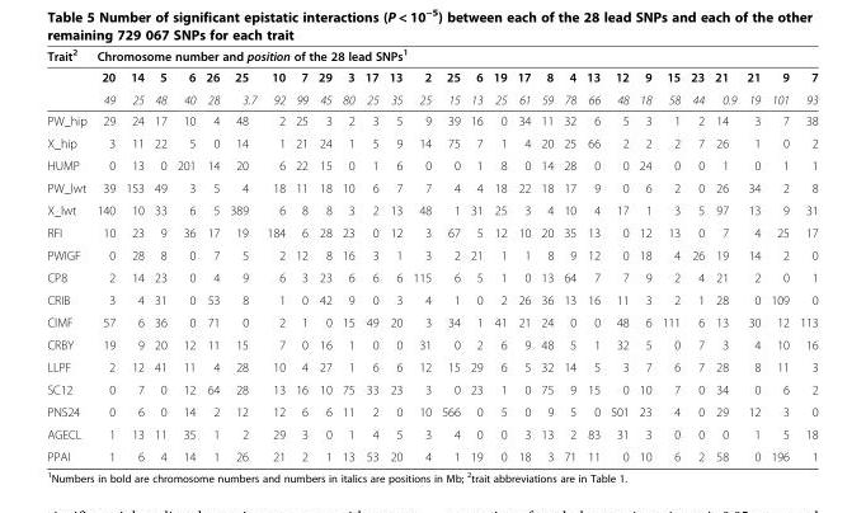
<table><thead><tr><td rowspan="2">Trait<sup>2</sup></td><td colspan="28">Chromosome number and position of the 28 lead SNPs<sup>1</sup></td></tr><tr><td>20</td><td>14</td><td>5</td><td>6</td><td>26</td><td>25</td><td>10</td><td>7</td><td>29</td><td>3</td><td>17</td><td>13</td><td>2</td><td>25</td><td>6</td><td>19</td><td>17</td><td>8</td><td>4</td><td>13</td><td>12</td><td>9</td><td>15</td><td>23</td><td>21</td><td>21</td><td>9</td><td>7</td></tr></thead><tbody><tr><td></td><td>49</td><td>25</td><td>48</td><td>40</td><td>28</td><td>3.7</td><td>92</td><td>99</td><td>45</td><td>80</td><td>25</td><td>35</td><td>25</td><td>15</td><td>13</td><td>25</td><td>61</td><td>59</td><td>78</td><td>66</td><td>48</td><td>18</td><td>58</td><td>44</td><td>0.9</td><td>19</td><td>101</td><td>93</td></tr><tr><td>PW_hip</td><td>29</td><td>24</td><td>17</td><td>10</td><td>4</td><td>48</td><td>2</td><td>25</td><td>3</td><td>2</td><td>3</td><td>5</td><td>9</td><td>39</td><td>16</td><td>0</td><td>34</td><td>11</td><td>32</td><td>6</td><td>5</td><td>3</td><td>1</td><td>2</td><td>14</td><td>3</td><td>7</td><td>38</td></tr><tr><td>X_hip</td><td>3</td><td>11</td><td>22</td><td>5</td><td>0</td><td>14</td><td>1</td><td>21</td><td>24</td><td>1</td><td>5</td><td>9</td><td>14</td><td>75</td><td>7</td><td>1</td><td>4</td><td>20</td><td>25</td><td>66</td><td>2</td><td>2</td><td>2</td><td>7</td><td>26</td><td>1</td><td>0</td><td>2</td></tr><tr><td>HUMP</td><td>0</td><td>13</td><td>0</td><td>201</td><td>14</td><td>20</td><td>6</td><td>22</td><td>15</td><td>0</td><td>1</td><td>6</td><td>0</td><td>0</td><td>1</td><td>8</td><td>0</td><td>14</td><td>28</td><td>0</td><td>0</td><td>24</td><td>0</td><td>0</td><td>1</td><td>0</td><td>1</td><td>1</td></tr><tr><td>PW_lwt</td><td>39</td><td>153</td><td>49</td><td>3</td><td>5</td><td>4</td><td>18</td><td>11</td><td>18</td><td>10</td><td>6</td><td>7</td><td>7</td><td>4</td><td>4</td><td>18</td><td>22</td><td>18</td><td>17</td><td>9</td><td>0</td><td>6</td><td>2</td><td>0</td><td>26</td><td>34</td><td>2</td><td>8</td></tr><tr><td>X_lwt</td><td>140</td><td>10</td><td>33</td><td>6</td><td>5</td><td>389</td><td>6</td><td>8</td><td>8</td><td>3</td><td>2</td><td>13</td><td>48</td><td>1</td><td>31</td><td>25</td><td>3</td><td>4</td><td>10</td><td>4</td><td>17</td><td>1</td><td>3</td><td>5</td><td>97</td><td>13</td><td>9</td><td>31</td></tr><tr><td>RFI</td><td>10</td><td>23</td><td>9</td><td>36</td><td>17</td><td>19</td><td>184</td><td>6</td><td>28</td><td>23</td><td>0</td><td>12</td><td>3</td><td>67</td><td>5</td><td>12</td><td>10</td><td>20</td><td>35</td><td>13</td><td>0</td><td>12</td><td>13</td><td>0</td><td>7</td><td>4</td><td>25</td><td>17</td></tr><tr><td>PWIGF</td><td>0</td><td>28</td><td>8</td><td>0</td><td>7</td><td>5</td><td>2</td><td>12</td><td>8</td><td>16</td><td>3</td><td>1</td><td>3</td><td>2</td><td>21</td><td>1</td><td>1</td><td>8</td><td>9</td><td>12</td><td>0</td><td>18</td><td>4</td><td>26</td><td>19</td><td>14</td><td>2</td><td>0</td></tr><tr><td>CP8</td><td>2</td><td>14</td><td>23</td><td>0</td><td>4</td><td>9</td><td>6</td><td>3</td><td>23</td><td>6</td><td>6</td><td>6</td><td>115</td><td>6</td><td>5</td><td>1</td><td>0</td><td>13</td><td>64</td><td>7</td><td>7</td><td>9</td><td>2</td><td>4</td><td>21</td><td>2</td><td>0</td><td>1</td></tr><tr><td>CRIB</td><td>3</td><td>4</td><td>31</td><td>0</td><td>53</td><td>8</td><td>1</td><td>0</td><td>42</td><td>9</td><td>0</td><td>3</td><td>4</td><td>1</td><td>0</td><td>2</td><td>26</td><td>36</td><td>13</td><td>16</td><td>11</td><td>3</td><td>2</td><td>1</td><td>28</td><td>0</td><td>109</td><td>0</td></tr><tr><td>CIMF</td><td>57</td><td>6</td><td>36</td><td>0</td><td>71</td><td>0</td><td>2</td><td>1</td><td>0</td><td>15</td><td>49</td><td>20</td><td>3</td><td>34</td><td>1</td><td>41</td><td>21</td><td>24</td><td>0</td><td>0</td><td>48</td><td>6</td><td>111</td><td>6</td><td>13</td><td>30</td><td>12</td><td>113</td></tr><tr><td>CRBY</td><td>19</td><td>9</td><td>20</td><td>12</td><td>11</td><td>15</td><td>7</td><td>0</td><td>16</td><td>1</td><td>0</td><td>0</td><td>31</td><td>0</td><td>2</td><td>6</td><td>9</td><td>48</td><td>5</td><td>1</td><td>32</td><td>5</td><td>0</td><td>7</td><td>3</td><td>4</td><td>10</td><td>16</td></tr><tr><td>LLPF</td><td>2</td><td>12</td><td>41</td><td>11</td><td>4</td><td>28</td><td>10</td><td>4</td><td>27</td><td>1</td><td>6</td><td>6</td><td>12</td><td>15</td><td>29</td><td>6</td><td>5</td><td>32</td><td>14</td><td>5</td><td>3</td><td>7</td><td>6</td><td>7</td><td>28</td><td>8</td><td>11</td><td>3</td></tr><tr><td>SC12</td><td>0</td><td>7</td><td>0</td><td>12</td><td>64</td><td>28</td><td>13</td><td>16</td><td>10</td><td>75</td><td>33</td><td>23</td><td>3</td><td>0</td><td>23</td><td>1</td><td>0</td><td>75</td><td>9</td><td>15</td><td>0</td><td>10</td><td>7</td><td>0</td><td>34</td><td>0</td><td>6</td><td>2</td></tr><tr><td>PNS24</td><td>0</td><td>6</td><td>0</td><td>14</td><td>2</td><td>12</td><td>12</td><td>6</td><td>6</td><td>11</td><td>2</td><td>0</td><td>10</td><td>566</td><td>0</td><td>5</td><td>0</td><td>9</td><td>5</td><td>0</td><td>501</td><td>23</td><td>4</td><td>0</td><td>29</td><td>12</td><td>3</td><td>0</td></tr><tr><td>AGECL</td><td>1</td><td>13</td><td>11</td><td>35</td><td>1</td><td>2</td><td>29</td><td>3</td><td>0</td><td>1</td><td>4</td><td>5</td><td>3</td><td>4</td><td>0</td><td>0</td><td>3</td><td>13</td><td>2</td><td>83</td><td>31</td><td>3</td><td>0</td><td>0</td><td>0</td><td>1</td><td>5</td><td>18</td></tr><tr><td>PPAI</td><td>1</td><td>6</td><td>4</td><td>14</td><td>1</td><td>26</td><td>21</td><td>2</td><td>1</td><td>13</td><td>53</td><td>20</td><td>4</td><td>1</td><td>19</td><td>0</td><td>18</td><td>3</td><td>71</td><td>11</td><td>0</td><td>10</td><td>6</td><td>2</td><td>58</td><td>0</td><td>196</td><td>1</td></tr></tbody></table>